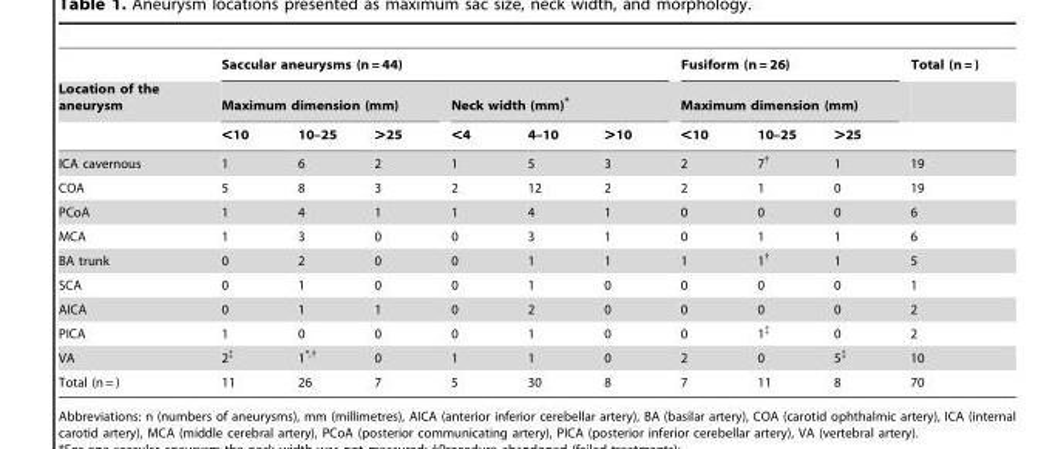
<table><thead><tr><td rowspan="3">Location of the aneurysm</td><td colspan="6">Saccular aneurysms (n = 44)</td><td rowspan="2" colspan="3">Fusiform (n = 26) Maximum dimension (mm)</td><td rowspan="3">Total (n = )</td></tr><tr><td colspan="3">Maximum dimension (mm)</td><td colspan="3">Neck width (mm)*</td></tr><tr><td>&lt;10</td><td>10–25</td><td>&gt;25</td><td>&lt;4</td><td>4–10</td><td>&gt;10</td><td>&lt;10</td><td>10–25</td><td>&gt;25</td></tr></thead><tbody><tr><td>ICA cavernous</td><td>1</td><td>6</td><td>2</td><td>1</td><td>5</td><td>3</td><td>2</td><td>7<sup>†</sup></td><td>1</td><td>19</td></tr><tr><td>COA</td><td>5</td><td>8</td><td>3</td><td>2</td><td>12</td><td>2</td><td>2</td><td>1</td><td>0</td><td>19</td></tr><tr><td>PCoA</td><td>1</td><td>4</td><td>1</td><td>1</td><td>4</td><td>1</td><td>0</td><td>0</td><td>0</td><td>6</td></tr><tr><td>MCA</td><td>1</td><td>3</td><td>0</td><td>0</td><td>3</td><td>1</td><td>0</td><td>1</td><td>1</td><td>6</td></tr><tr><td>BA trunk</td><td>0</td><td>2</td><td>0</td><td>0</td><td>1</td><td>1</td><td>1</td><td>1<sup>†</sup></td><td>1</td><td>5</td></tr><tr><td>SCA</td><td>0</td><td>1</td><td>0</td><td>0</td><td>1</td><td>0</td><td>0</td><td>0</td><td>0</td><td>1</td></tr><tr><td>AICA</td><td>0</td><td>1</td><td>1</td><td>0</td><td>2</td><td>0</td><td>0</td><td>0</td><td>0</td><td>2</td></tr><tr><td>PICA</td><td>1</td><td>0</td><td>0</td><td>0</td><td>1</td><td>0</td><td>0</td><td>1‡</td><td>0</td><td>2</td></tr><tr><td>VA</td><td>2‡</td><td>1*,†</td><td>0</td><td>1</td><td>1</td><td>0</td><td>2</td><td>0</td><td>5‡</td><td>10</td></tr><tr><td>Total (n = )</td><td>11</td><td>26</td><td>7</td><td>5</td><td>30</td><td>8</td><td>7</td><td>11</td><td>8</td><td>70</td></tr></tbody></table>